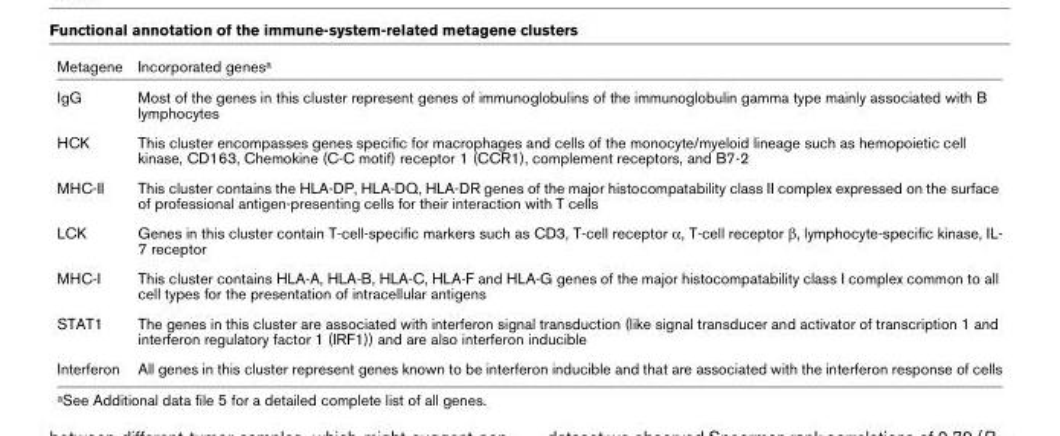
<table><thead><tr><td>Metagene</td><td>Incorporated genes<sup>a</sup></td></tr></thead><tbody><tr><td>IgG</td><td>Most of the genes in this cluster represent genes of immunoglobulins of the immunoglobulin gamma type mainly associated with B lymphocytes</td></tr><tr><td>HCK</td><td>This cluster encompasses genes specific for macrophages and cells of the monocyte/myeloid lineage such as hemopoietic cell kinase, CD163, Chemokine (C-C motif) receptor 1 (CCR1), complement receptors, and B7-2</td></tr><tr><td>MHC-II</td><td>This cluster contains the HLA-DP, HLA-DQ, HLA-DR genes of the major histocompatability class II complex expressed on the surface of professional antigen-presenting cells for their interaction with T cells</td></tr><tr><td>LCK</td><td>Genes in this cluster contain T-cell-specific markers such as CD3, T-cell receptor α, T-cell receptor β, lymphocyte-specific kinase, IL- 7 receptor</td></tr><tr><td>MHC-I</td><td>This cluster contains HLA-A, HLA-B, HLA-C, HLA-F and HLA-G genes of the major histocompatability class I complex common to all cell types for the presentation of intracellular antigens</td></tr><tr><td>STAT1</td><td>The genes in this cluster are associated with interferon signal transduction (like signal transducer and activator of transcription 1 and interferon regulatory factor 1 (IRF1)) and are also interferon inducible</td></tr><tr><td>Interferon</td><td>All genes in this cluster represent genes known to be interferon inducible and that are associated with the interferon response of cells</td></tr></tbody></table>